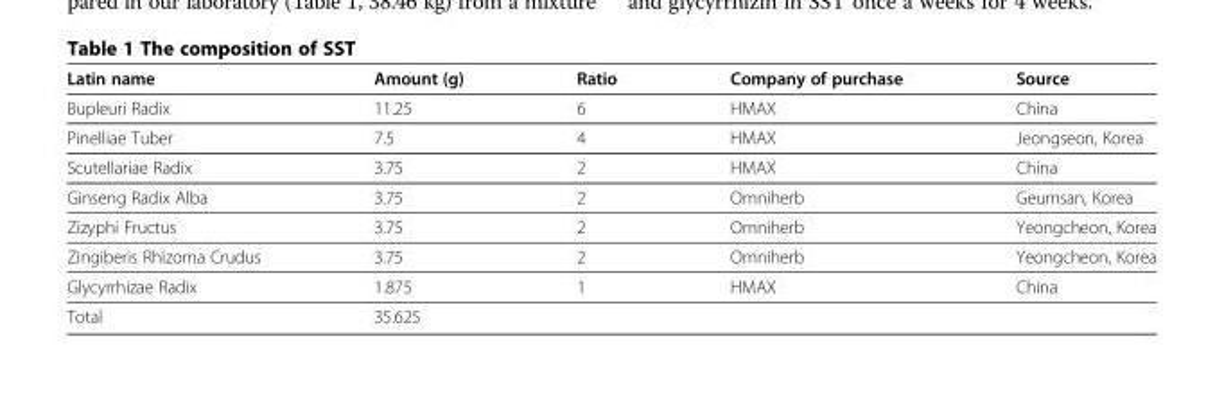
<table><thead><tr><td>Latin name</td><td>Amount (g)</td><td>Ratio</td><td>Company of purchase</td><td>Source</td></tr></thead><tbody><tr><td>Bupleuri Radix</td><td>11.25</td><td>6</td><td>HMAX</td><td>China</td></tr><tr><td>Pinelliae Tuber</td><td>7.5</td><td>4</td><td>HMAX</td><td>Jeongseon, Korea</td></tr><tr><td>Scutellariae Radix</td><td>3.75</td><td>2</td><td>HMAX</td><td>China</td></tr><tr><td>Ginseng Radix Alba</td><td>3.75</td><td>2</td><td>Omniherb</td><td>Geumsan, Korea</td></tr><tr><td>Zizyphi Fructus</td><td>3.75</td><td>2</td><td>Omniherb</td><td>Yeongcheon, Korea</td></tr><tr><td>Zingiberis Rhizoma Crudus</td><td>3.75</td><td>2</td><td>Omniherb</td><td>Yeongcheon, Korea</td></tr><tr><td>Glycyrrhizae Radix</td><td>1.875</td><td>1</td><td>HMAX</td><td>China</td></tr><tr><td>Total</td><td>35.625</td><td></td><td></td><td></td></tr></tbody></table>